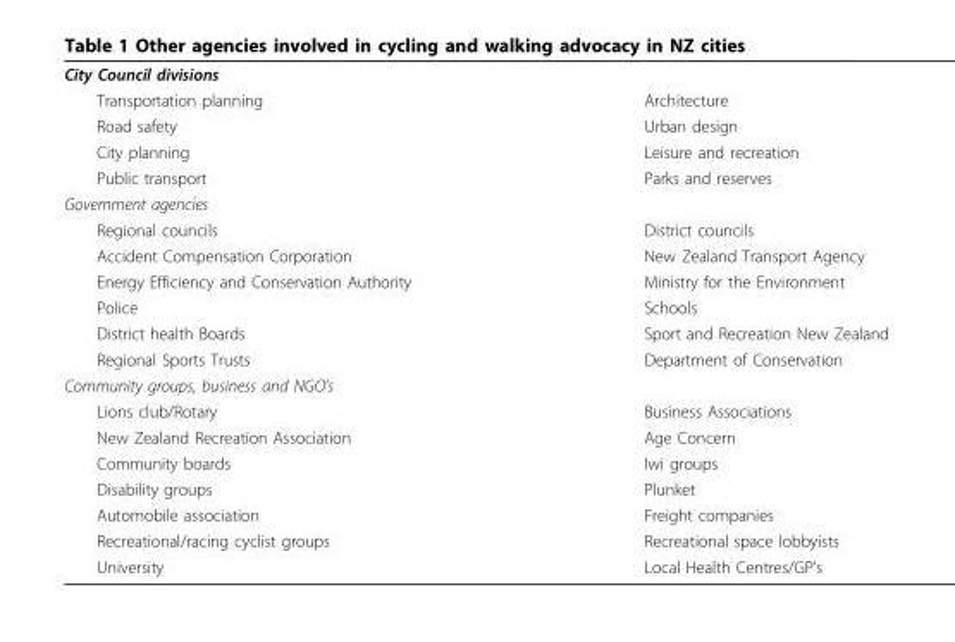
<table><tbody><tr><td colspan="2">City Council divisions</td></tr><tr><td>Transportation planning</td><td>Architecture</td></tr><tr><td>Road safety</td><td>Urban design</td></tr><tr><td>City planning</td><td>Leisure and recreation</td></tr><tr><td>Public transport</td><td>Parks and reserves</td></tr><tr><td colspan="2">Government agencies</td></tr><tr><td>Regional councils</td><td>District councils</td></tr><tr><td>Accident Compensation Corporation</td><td>New Zealand Transport Agency</td></tr><tr><td>Energy Efficiency and Conservation Authority</td><td>Ministry for the Environment</td></tr><tr><td>Police</td><td>Schools</td></tr><tr><td>District health Boards</td><td>Sport and Recreation New Zealand</td></tr><tr><td>Regional Sports Trusts</td><td>Department of Conservation</td></tr><tr><td colspan="2">Community groups, business and NGO’s</td></tr><tr><td>Lions club/Rotary</td><td>Business Associations</td></tr><tr><td>New Zealand Recreation Association</td><td>Age Concern</td></tr><tr><td>Community boards</td><td>Iwi groups</td></tr><tr><td>Disability groups</td><td>Plunket</td></tr><tr><td>Automobile association</td><td>Freight companies</td></tr><tr><td>Recreational/racing cyclist groups</td><td>Recreational space lobbyists</td></tr><tr><td>University</td><td>Local Health Centres/GP’s</td></tr></tbody></table>